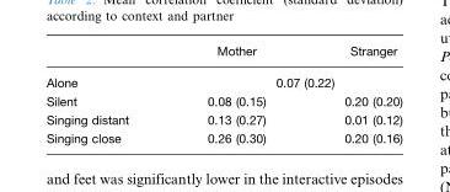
<table><thead><tr><td></td><td>Mother</td><td>Stranger</td></tr></thead><tbody><tr><td>Alone</td><td colspan="2">0.07 (0.22)</td></tr><tr><td>Silent</td><td>0.08 (0.15)</td><td>0.20 (0.20)</td></tr><tr><td>Singing distant</td><td>0.13 (0.27)</td><td>0.01 (0.12)</td></tr><tr><td>Singing close</td><td>0.26 (0.30)</td><td>0.20 (0.16)</td></tr></tbody></table>